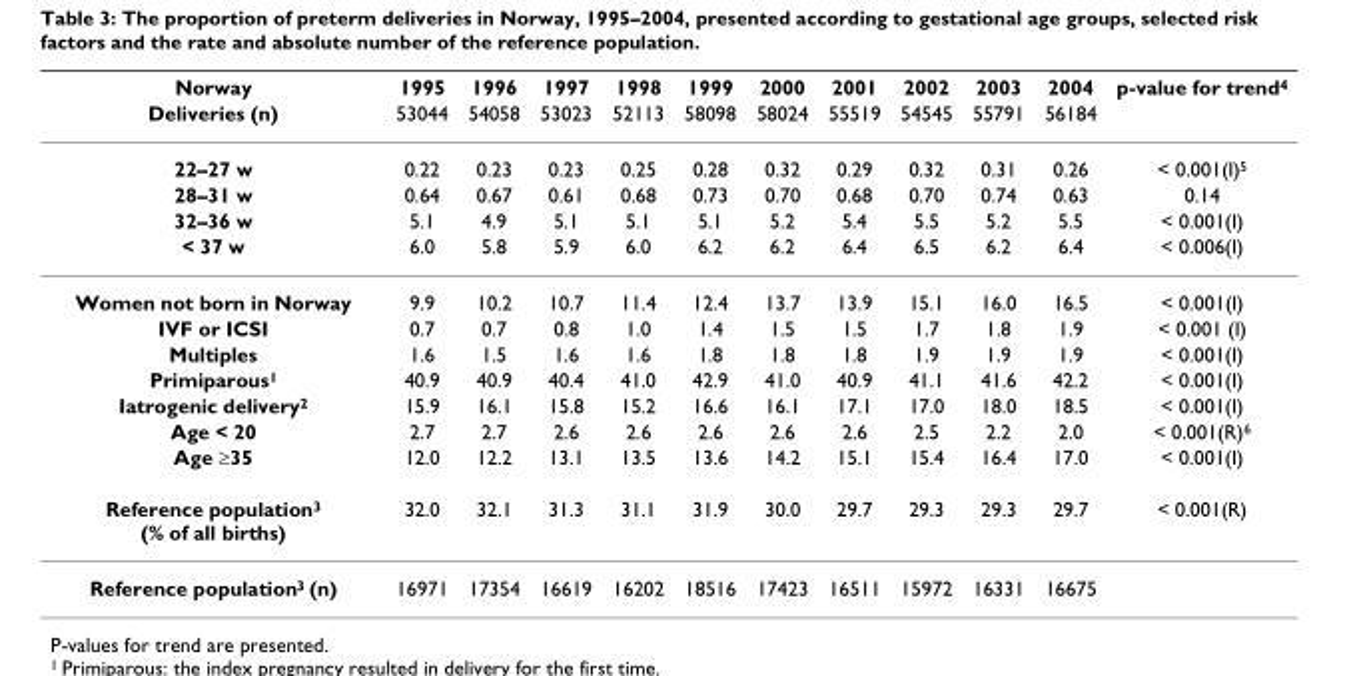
<table><thead><tr><td rowspan="2">Norway Deliveries (n)</td><td rowspan="2">1995 53044</td><td rowspan="2">1996 54058</td><td rowspan="2">1997 53023</td><td rowspan="2">1998 52113</td><td rowspan="2">1999 58098</td><td rowspan="2">2000 58024</td><td rowspan="2">2001 55519</td><td rowspan="2">2002 54545</td><td rowspan="2">2003 55791</td><td rowspan="2">2004 56184</td><td rowspan="2">p-value for trend4</td></tr><tr></tr></thead><tbody><tr><td>22–27 w</td><td>0.22</td><td>0.23</td><td>0.23</td><td>0.25</td><td>0.28</td><td>0.32</td><td>0.29</td><td>0.32</td><td>0.31</td><td>0.26</td><td>&lt; 0.001(I)5</td></tr><tr><td>28–31 w</td><td>0.64</td><td>0.67</td><td>0.61</td><td>0.68</td><td>0.73</td><td>0.70</td><td>0.68</td><td>0.70</td><td>0.74</td><td>0.63</td><td>0.14</td></tr><tr><td>32–36 w</td><td>5.1</td><td>4.9</td><td>5.1</td><td>5.1</td><td>5.1</td><td>5.2</td><td>5.4</td><td>5.5</td><td>5.2</td><td>5.5</td><td>&lt; 0.001(I)</td></tr><tr><td>&lt; 37 w</td><td>6.0</td><td>5.8</td><td>5.9</td><td>6.0</td><td>6.2</td><td>6.2</td><td>6.4</td><td>6.5</td><td>6.2</td><td>6.4</td><td>&lt; 0.006(I)</td></tr><tr><td>Women not born in Norway</td><td>9.9</td><td>10.2</td><td>10.7</td><td>11.4</td><td>12.4</td><td>13.7</td><td>13.9</td><td>15.1</td><td>16.0</td><td>16.5</td><td>&lt; 0.001(I)</td></tr><tr><td>IVF or ICSI</td><td>0.7</td><td>0.7</td><td>0.8</td><td>1.0</td><td>1.4</td><td>1.5</td><td>1.5</td><td>1.7</td><td>1.8</td><td>1.9</td><td>&lt; 0.001 (I)</td></tr><tr><td>Multiples</td><td>1.6</td><td>1.5</td><td>1.6</td><td>1.6</td><td>1.8</td><td>1.8</td><td>1.8</td><td>1.9</td><td>1.9</td><td>1.9</td><td>&lt; 0.001(I)</td></tr><tr><td>Primiparous<sup>1</sup></td><td>40.9</td><td>40.9</td><td>40.4</td><td>41.0</td><td>42.9</td><td>41.0</td><td>40.9</td><td>41.1</td><td>41.6</td><td>42.2</td><td>&lt; 0.001(I)</td></tr><tr><td>Iatrogenic delivery<sup>2</sup></td><td>15.9</td><td>16.1</td><td>15.8</td><td>15.2</td><td>16.6</td><td>16.1</td><td>17.1</td><td>17.0</td><td>18.0</td><td>18.5</td><td>&lt; 0.001(I)</td></tr><tr><td>Age &lt; 20</td><td>2.7</td><td>2.7</td><td>2.6</td><td>2.6</td><td>2.6</td><td>2.6</td><td>2.6</td><td>2.5</td><td>2.2</td><td>2.0</td><td>&lt; 0.001(R)<sup>6</sup></td></tr><tr><td>Age ≥35</td><td>12.0</td><td>12.2</td><td>13.1</td><td>13.5</td><td>13.6</td><td>14.2</td><td>15.1</td><td>15.4</td><td>16.4</td><td>17.0</td><td>&lt; 0.001(I)</td></tr><tr><td>Reference population<sup>3</sup> (% of all births)</td><td>32.0</td><td>32.1</td><td>31.3</td><td>31.1</td><td>31.9</td><td>30.0</td><td>29.7</td><td>29.3</td><td>29.3</td><td>29.7</td><td>&lt; 0.001(R)</td></tr><tr><td>Reference population<sup>3</sup> (n)</td><td>16971</td><td>17354</td><td>16619</td><td>16202</td><td>18516</td><td>17423</td><td>16511</td><td>15972</td><td>16331</td><td>16675</td><td></td></tr></tbody></table>